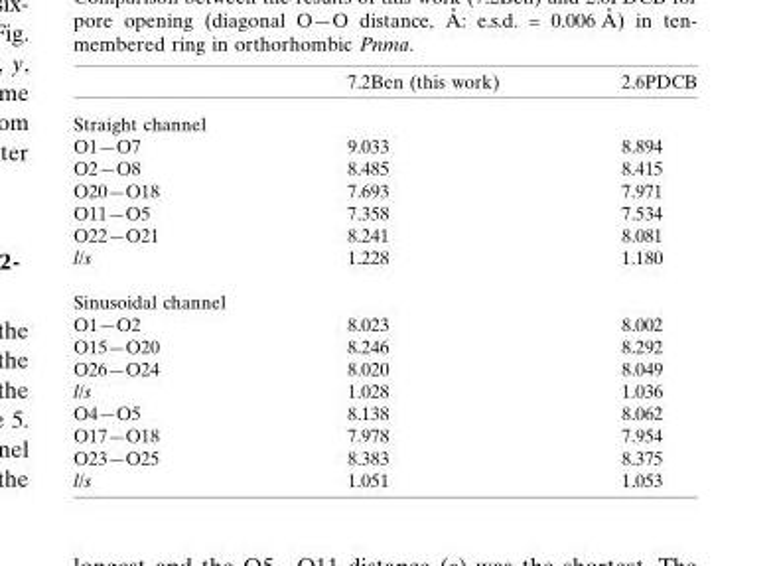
<table><thead><tr><td></td><td>7.2Ben (this work)</td><td>2.6PDCB</td></tr></thead><tbody><tr><td colspan="3">Straight channel</td></tr><tr><td>O1—O7</td><td>9.033</td><td>8.894</td></tr><tr><td>O2—O8</td><td>8.485</td><td>8.415</td></tr><tr><td>O20—O18</td><td>7.693</td><td>7.971</td></tr><tr><td>O11—O5</td><td>7.358</td><td>7.534</td></tr><tr><td>O22—O21</td><td>8.241</td><td>8.081</td></tr><tr><td>l/s</td><td>1.228</td><td>1.180</td></tr><tr><td colspan="3">Sinusoidal channel</td></tr><tr><td>O1—O2</td><td>8.023</td><td>8.002</td></tr><tr><td>O15—O20</td><td>8.246</td><td>8.292</td></tr><tr><td>O26—O24</td><td>8.020</td><td>8.049</td></tr><tr><td>l/s</td><td>1.028</td><td>1.036</td></tr><tr><td>O4—O5</td><td>8.138</td><td>8.062</td></tr><tr><td>O17—O18</td><td>7.978</td><td>7.954</td></tr><tr><td>O23—O25</td><td>8.383</td><td>8.375</td></tr><tr><td>l/s</td><td>1.051</td><td>1.053</td></tr></tbody></table>